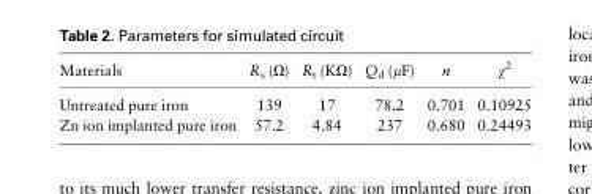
<table><thead><tr><td>Materials</td><td>R<sub>s</sub> (Ω)</td><td>R<sub>t</sub> (KΩ)</td><td>Q<sub>d</sub> (μF)</td><td>n</td><td>χ<sup>2</sup></td></tr></thead><tbody><tr><td>Untreated pure iron</td><td>139</td><td>17</td><td>78.2</td><td>0.701</td><td>0.10925</td></tr><tr><td>Zn ion implanted pure iron</td><td>57.2</td><td>4.84</td><td>237</td><td>0.680</td><td>0.24493</td></tr></tbody></table>